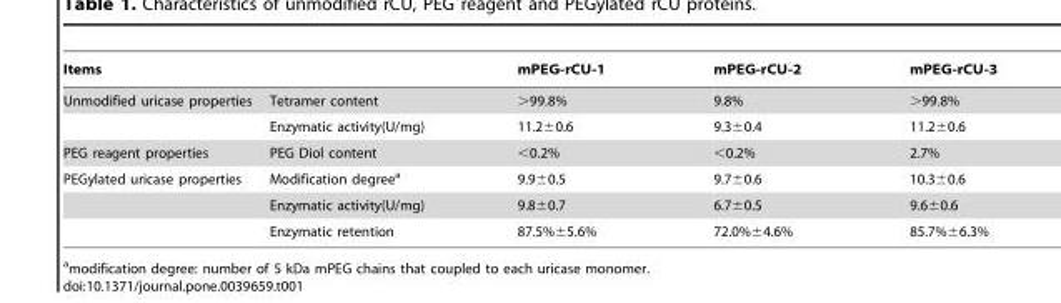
<table><thead><tr><td colspan="2">Items</td><td rowspan="2">mPEG-rCU-1 &gt;99.8%</td><td rowspan="2">mPEG-rCU-2 9.8%</td><td rowspan="2">mPEG-rCU-3 &gt;99.8%</td></tr><tr><td>Unmodified uricase properties</td><td>Tetramer content</td></tr></thead><tbody><tr><td></td><td>Enzymatic activity(U/mg)</td><td>11.2±0.6</td><td>9.3±0.4</td><td>11.2±0.6</td></tr><tr><td>PEG reagent properties</td><td>PEG Diol content</td><td>&lt;0.2%</td><td>&lt;0.2%</td><td>2.7%</td></tr><tr><td rowspan="3">PEGylated uricase properties</td><td>Modification degree<sup>a</sup></td><td>9.9±0.5</td><td>9.7±0.6</td><td>10.3±0.6</td></tr><tr><td>Enzymatic activity(U/mg)</td><td>9.8±0.7</td><td>6.7±0.5</td><td>9.6±0.6</td></tr><tr><td>Enzymatic retention</td><td>87.5%±5.6%</td><td>72.0%±4.6%</td><td>85.7%±6.3%</td></tr></tbody></table>